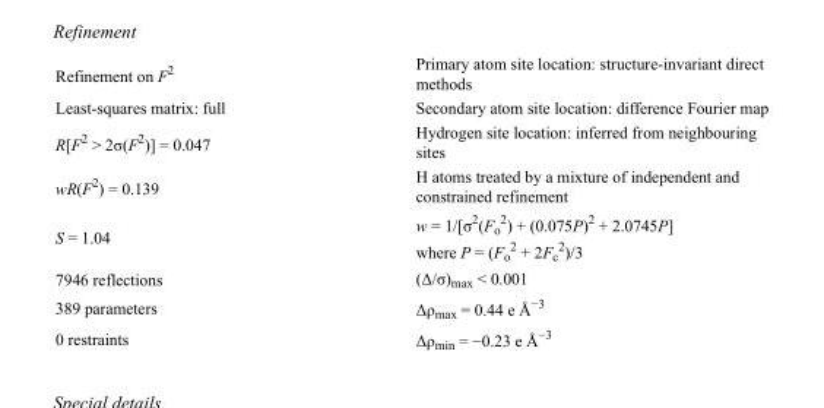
<table><tbody><tr><td>Refinement on F<sup>2</sup></td><td>Primary atom site location: structure-invariant direct methods</td></tr><tr><td>Least-squares matrix: full</td><td>Secondary atom site location: difference Fourier map</td></tr><tr><td>R[F<sup>2</sup> &gt; 2σ(F<sup>2</sup>)] = 0.047</td><td>Hydrogen site location: inferred from neighbouring sites</td></tr><tr><td>wR(F<sup>2</sup>) = 0.139</td><td>H atoms treated by a mixture of independent and constrained refinement</td></tr><tr><td>S = 1.04</td><td>w = 1/[σ<sup>2</sup>(F<sub>o</sub> <sup>2</sup>) + (0.075P)<sup>2</sup> + 2.0745P] where P = (F<sub>o</sub> <sup>2</sup> + 2F<sub>c</sub> <sup>2</sup>)/3</td></tr><tr><td>7946 reflections</td><td>(Δ/σ)<sub>max</sub> &lt; 0.001</td></tr><tr><td>389 parameters</td><td>Δρ<sub>max</sub> = 0.44 e Å<sup>−3</sup></td></tr><tr><td>0 restraints</td><td>Δρmin = −0.23 e Å−3</td></tr></tbody></table>